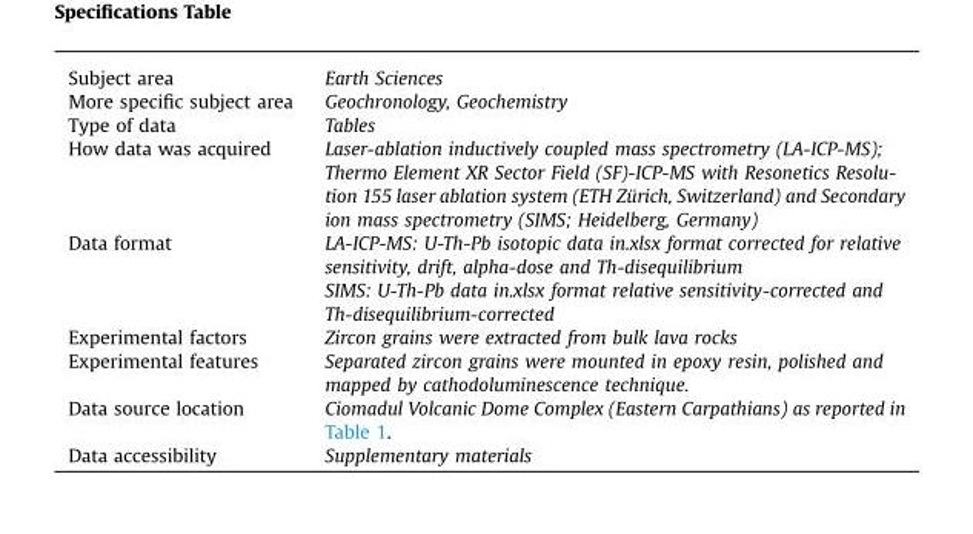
<table><tbody><tr><td>Subject area</td><td>Earth Sciences</td></tr><tr><td>More specific subject area</td><td>Geochronology, Geochemistry</td></tr><tr><td>Type of data</td><td>Tables</td></tr><tr><td>How data was acquired</td><td>Laser-ablation inductively coupled mass spectrometry (LA-ICP-MS); Thermo Element XR Sector Field (SF)-ICP-MS with Resonetics Resolu- tion 155 laser ablation system (ETH Zürich, Switzerland) and Secondary ion mass spectrometry (SIMS; Heidelberg, Germany)</td></tr><tr><td rowspan="2">Data format</td><td>LA-ICP-MS: U-Th-Pb isotopic data in.xlsx format corrected for relative sensitivity, drift, alpha-dose and Th-disequilibrium</td></tr><tr><td>SIMS: U-Th-Pb data in.xlsx format relative sensitivity-corrected and Th-disequilibrium-corrected</td></tr><tr><td>Experimental factors</td><td>Zircon grains were extracted from bulk lava rocks</td></tr><tr><td>Experimental features</td><td>Separated zircon grains were mounted in epoxy resin, polished and mapped by cathodoluminescence technique.</td></tr><tr><td>Data source location</td><td>Ciomadul Volcanic Dome Complex (Eastern Carpathians) as reported in Table 1.</td></tr><tr><td>Data accessibility</td><td>Supplementary materials</td></tr></tbody></table>